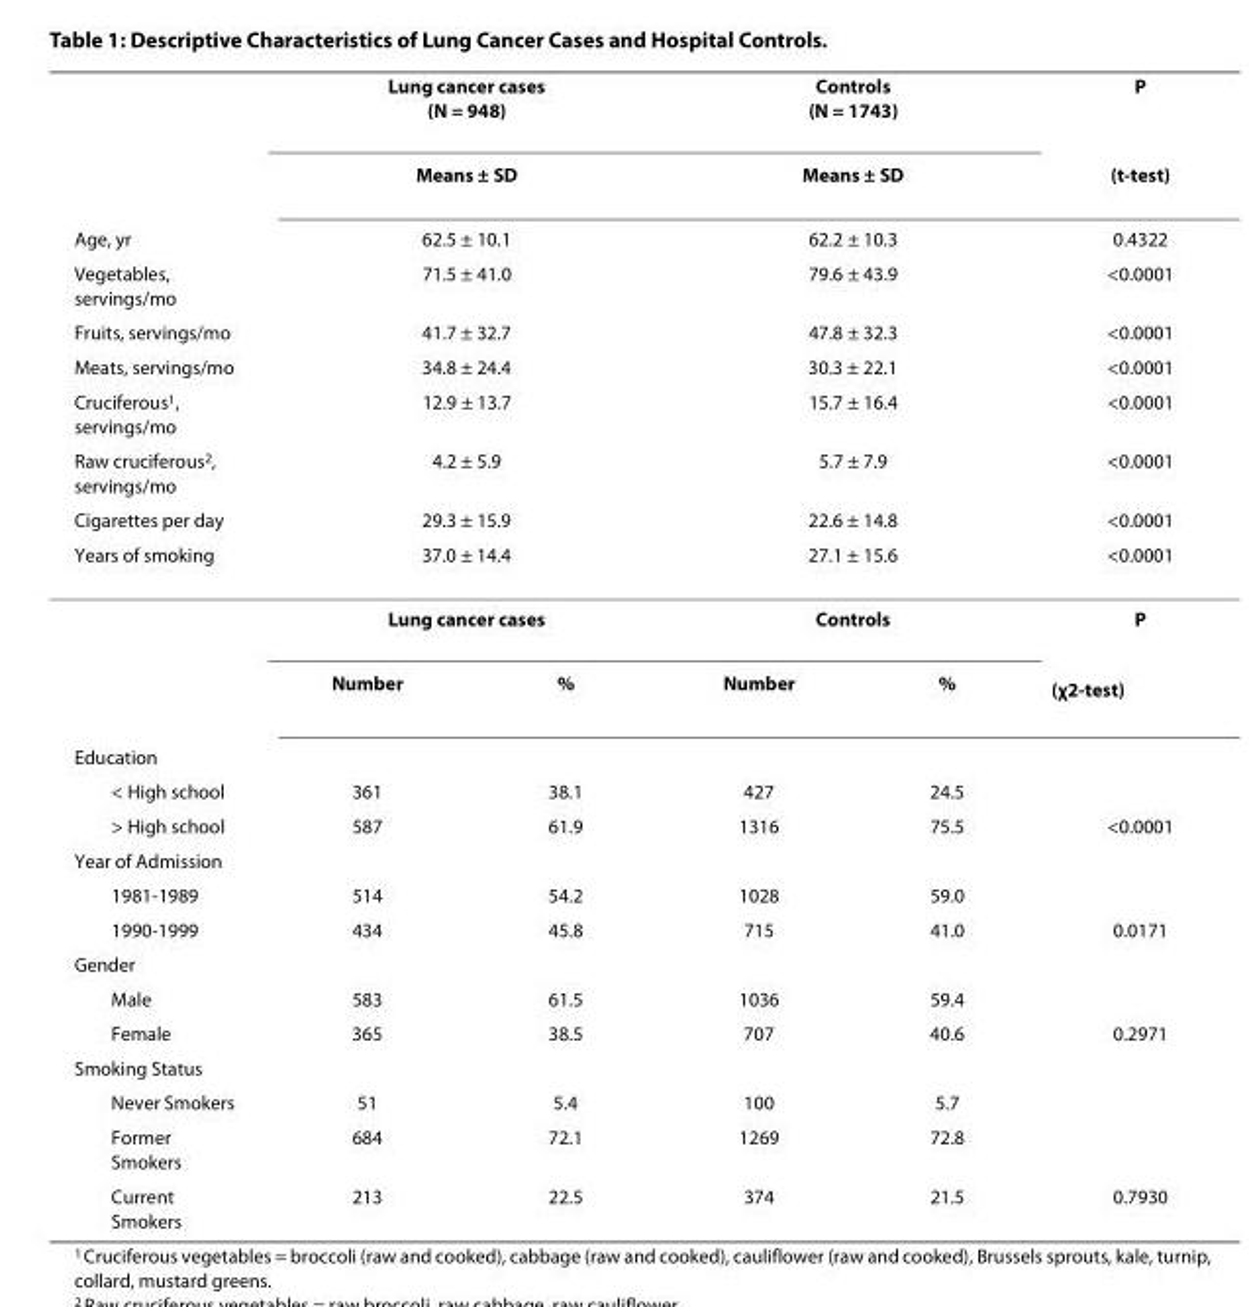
<table><thead><tr><td rowspan="12">Age, yr Vegetables, servings/mo Fruits, servings/mo Meats, servings/mo Cruciferous1, servings/mo Raw cruciferous2, servings/mo Cigarettes per day Years of smoking</td><td rowspan="11" colspan="2">Lung cancer cases (N = 948) Means ± SD 62.5 ± 10.1 71.5 ± 41.0 41.7 ± 32.7 34.8 ± 24.4 12.9 ± 13.7 4.2 ± 5.9 29.3 ± 15.9 37.0 ± 14.4 Lung cancer cases</td><td rowspan="11" colspan="2">Controls (N = 1743) Means ± SD 62.2 ± 10.3 79.6 ± 43.9 47.8 ± 32.3 30.3 ± 22.1 15.7 ± 16.4 5.7 ± 7.9 22.6 ± 14.8 27.1 ± 15.6 Controls</td><td rowspan="12">P (t-test) 0.4322 &lt;0.0001 &lt;0.0001 &lt;0.0001 &lt;0.0001 &lt;0.0001 &lt;0.0001 &lt;0.0001 P (χ2-test)</td></tr><tr></tr><tr></tr><tr></tr><tr></tr><tr></tr><tr></tr><tr></tr><tr></tr><tr></tr><tr></tr><tr><td>Number</td><td>%</td><td>Number</td><td>%</td></tr></thead><tbody><tr><td colspan="6">Education</td></tr><tr><td>&lt; High school</td><td>361</td><td>38.1</td><td>427</td><td>24.5</td><td></td></tr><tr><td>&gt; High school</td><td>587</td><td>61.9</td><td>1316</td><td>75.5</td><td>&lt;0.0001</td></tr><tr><td colspan="6">Year of Admission</td></tr><tr><td>1981-1989</td><td>514</td><td>54.2</td><td>1028</td><td>59.0</td><td></td></tr><tr><td>1990-1999</td><td>434</td><td>45.8</td><td>715</td><td>41.0</td><td>0.0171</td></tr><tr><td colspan="6">Gender</td></tr><tr><td>Male</td><td>583</td><td>61.5</td><td>1036</td><td>59.4</td><td></td></tr><tr><td>Female</td><td>365</td><td>38.5</td><td>707</td><td>40.6</td><td>0.2971</td></tr><tr><td colspan="6">Smoking Status</td></tr><tr><td>Never Smokers</td><td>51</td><td>5.4</td><td>100</td><td>5.7</td><td></td></tr><tr><td>Former Smokers</td><td>684</td><td>72.1</td><td>1269</td><td>72.8</td><td></td></tr><tr><td>Current Smokers</td><td>213</td><td>22.5</td><td>374</td><td>21.5</td><td>0.7930</td></tr></tbody></table>